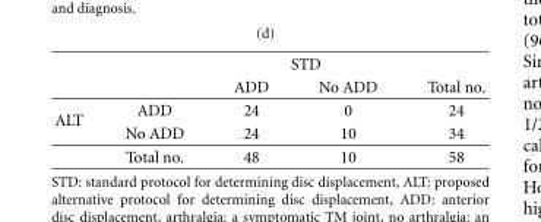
<table><thead><tr><td rowspan="2"></td><td rowspan="2"></td><td colspan="2">STD</td><td rowspan="2">Total no.</td></tr><tr><td>ADD</td><td>No ADD</td></tr></thead><tbody><tr><td rowspan="3">ALT</td><td>ADD</td><td>24</td><td>0</td><td>24</td></tr><tr><td>No ADD</td><td>24</td><td>10</td><td>34</td></tr><tr><td>Total no.</td><td>48</td><td>10</td><td>58</td></tr></tbody></table>